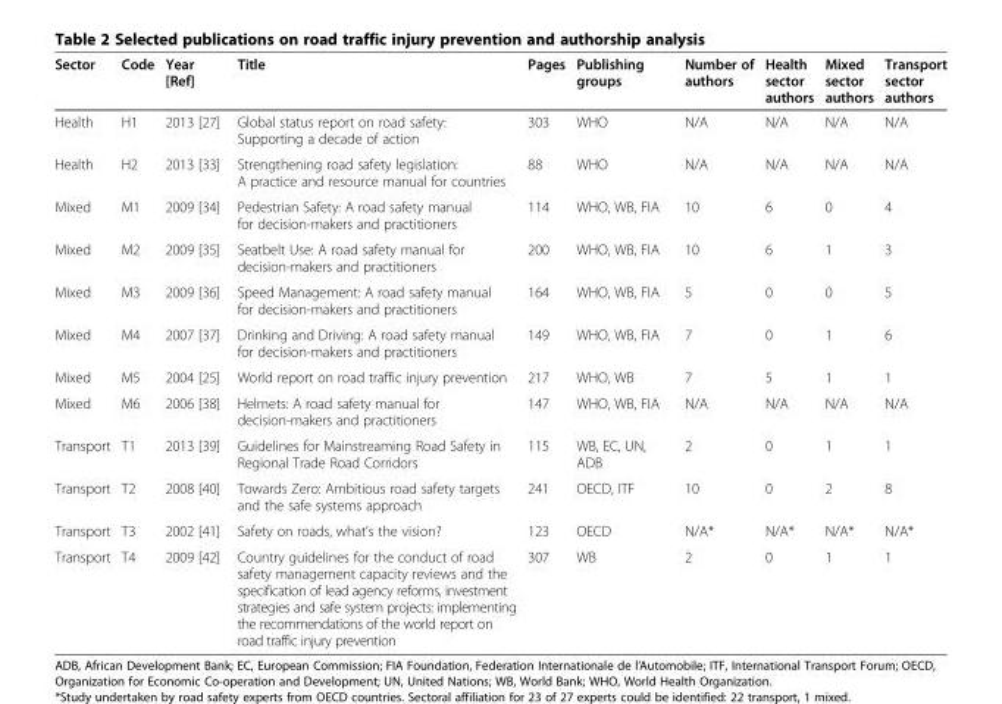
<table><thead><tr><td>Sector</td><td>Code</td><td>Year [Ref]</td><td>Title</td><td>Pages</td><td>Publishing groups</td><td>Number of authors</td><td>Health sector authors</td><td>Mixed sector authors</td><td>Transport sector authors</td></tr></thead><tbody><tr><td>Health</td><td>H1</td><td>2013 [27]</td><td>Global status report on road safety: Supporting a decade of action</td><td>303</td><td>WHO</td><td>N/A</td><td>N/A</td><td>N/A</td><td>N/A</td></tr><tr><td>Health</td><td>H2</td><td>2013 [33]</td><td>Strengthening road safety legislation: A practice and resource manual for countries</td><td>88</td><td>WHO</td><td>N/A</td><td>N/A</td><td>N/A</td><td>N/A</td></tr><tr><td>Mixed</td><td>M1</td><td>2009 [34]</td><td>Pedestrian Safety: A road safety manual for decision-makers and practitioners</td><td>114</td><td>WHO, WB, FIA</td><td>10</td><td>6</td><td>0</td><td>4</td></tr><tr><td>Mixed</td><td>M2</td><td>2009 [35]</td><td>Seatbelt Use: A road safety manual for decision-makers and practitioners</td><td>200</td><td>WHO, WB, FIA</td><td>10</td><td>6</td><td>1</td><td>3</td></tr><tr><td>Mixed</td><td>M3</td><td>2009 [36]</td><td>Speed Management: A road safety manual for decision-makers and practitioners</td><td>164</td><td>WHO, WB, FIA</td><td>5</td><td>0</td><td>0</td><td>5</td></tr><tr><td>Mixed</td><td>M4</td><td>2007 [37]</td><td>Drinking and Driving: A road safety manual for decision-makers and practitioners</td><td>149</td><td>WHO, WB, FIA</td><td>7</td><td>0</td><td>1</td><td>6</td></tr><tr><td>Mixed</td><td>M5</td><td>2004 [25]</td><td>World report on road traffic injury prevention</td><td>217</td><td>WHO, WB</td><td>7</td><td>5</td><td>1</td><td>1</td></tr><tr><td>Mixed</td><td>M6</td><td>2006 [38]</td><td>Helmets: A road safety manual for decision-makers and practitioners</td><td>147</td><td>WHO, WB, FIA</td><td>N/A</td><td>N/A</td><td>N/A</td><td>N/A</td></tr><tr><td>Transport</td><td>T1</td><td>2013 [39]</td><td>Guidelines for Mainstreaming Road Safety in Regional Trade Road Corridors</td><td>115</td><td>WB, EC, UN, ADB</td><td>2</td><td>0</td><td>1</td><td>1</td></tr><tr><td>Transport</td><td>T2</td><td>2008 [40]</td><td>Towards Zero: Ambitious road safety targets and the safe systems approach</td><td>241</td><td>OECD, ITF</td><td>10</td><td>0</td><td>2</td><td>8</td></tr><tr><td>Transport</td><td>T3</td><td>2002 [41]</td><td>Safety on roads, what’s the vision?</td><td>123</td><td>OECD</td><td>N/A*</td><td>N/A*</td><td>N/A*</td><td>N/A*</td></tr><tr><td>Transport</td><td>T4</td><td>2009 [42]</td><td>Country guidelines for the conduct of road safety management capacity reviews and the specification of lead agency reforms, investment strategies and safe system projects: implementing the recommendations of the world report on road traffic injury prevention</td><td>307</td><td>WB</td><td>2</td><td>0</td><td>1</td><td>1</td></tr></tbody></table>